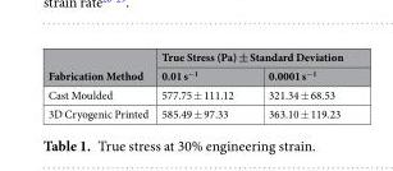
<table><thead><tr><td rowspan="2">Fabrication Method</td><td colspan="2">True Stress (Pa) ± Standard Deviation</td></tr><tr><td>0.01 s<sup>−1</sup></td><td>0.0001 s<sup>−1</sup></td></tr></thead><tbody><tr><td>Cast Moulded</td><td>577.75 ± 111.12</td><td>321.34 ± 68.53</td></tr><tr><td>3D Cryogenic Printed</td><td>585.49 ± 97.33</td><td>363.10 ± 119.23</td></tr></tbody></table>